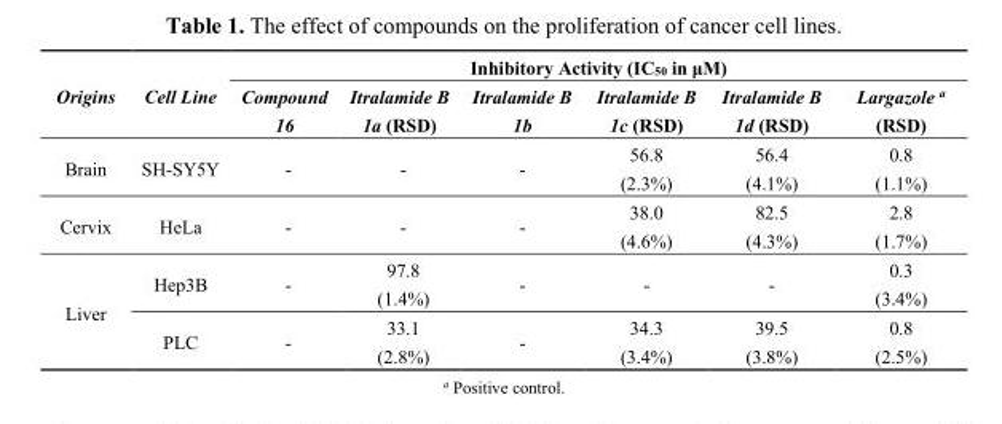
<table><thead><tr><td rowspan="2">Origins</td><td rowspan="2">Cell Line</td><td colspan="6">Inhibitory Activity (IC<sub>50</sub> in μM)</td></tr><tr><td>Compound 16</td><td>Itralamide B 1a (RSD)</td><td>Itralamide B 1b</td><td>Itralamide B 1c (RSD)</td><td>Itralamide B 1d (RSD)</td><td>Largazole <sup>a</sup> (RSD)</td></tr></thead><tbody><tr><td>Brain</td><td>SH-SY5Y</td><td>-</td><td>-</td><td>-</td><td>56.8 (2.3%)</td><td>56.4 (4.1%)</td><td>0.8 (1.1%)</td></tr><tr><td>Cervix</td><td>HeLa</td><td>-</td><td>-</td><td>-</td><td>38.0 (4.6%)</td><td>82.5 (4.3%)</td><td>2.8 (1.7%)</td></tr><tr><td rowspan="2">Liver</td><td>Hep3B</td><td>-</td><td>97.8 (1.4%)</td><td>-</td><td>-</td><td>-</td><td>0.3 (3.4%)</td></tr><tr><td>PLC</td><td>-</td><td>33.1 (2.8%)</td><td>-</td><td>34.3 (3.4%)</td><td>39.5 (3.8%)</td><td>0.8 (2.5%)</td></tr></tbody></table>